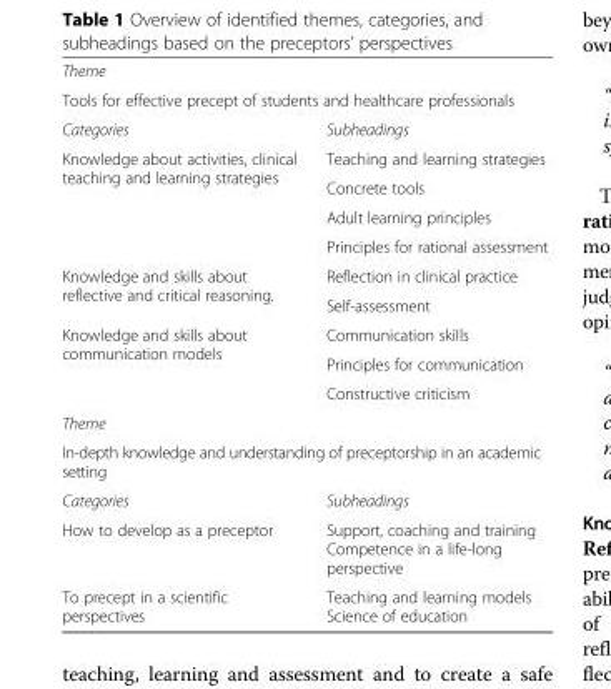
<table><tbody><tr><td colspan="2">Theme</td></tr><tr><td colspan="2">Tools for effective precept of students and healthcare professionals</td></tr><tr><td>Categories</td><td>Subheadings</td></tr><tr><td rowspan="4">Knowledge about activities, clinical teaching and learning strategies</td><td>Teaching and learning strategies</td></tr><tr><td>Concrete tools</td></tr><tr><td>Adult learning principles</td></tr><tr><td>Principles for rational assessment</td></tr><tr><td rowspan="2">Knowledge and skills about reflective and critical reasoning.</td><td>Reflection in clinical practice</td></tr><tr><td>Self-assessment</td></tr><tr><td rowspan="3">Knowledge and skills about communication models</td><td>Communication skills</td></tr><tr><td>Principles for communication</td></tr><tr><td>Constructive criticism</td></tr><tr><td colspan="2">Theme</td></tr><tr><td colspan="2">In-depth knowledge and understanding of preceptorship in an academic setting</td></tr><tr><td>Categories</td><td>Subheadings</td></tr><tr><td>How to develop as a preceptor</td><td>Support, coaching and training Competence in a life-long perspective</td></tr><tr><td>To precept in a scientific perspectives</td><td>Teaching and learning models Science of education</td></tr></tbody></table>